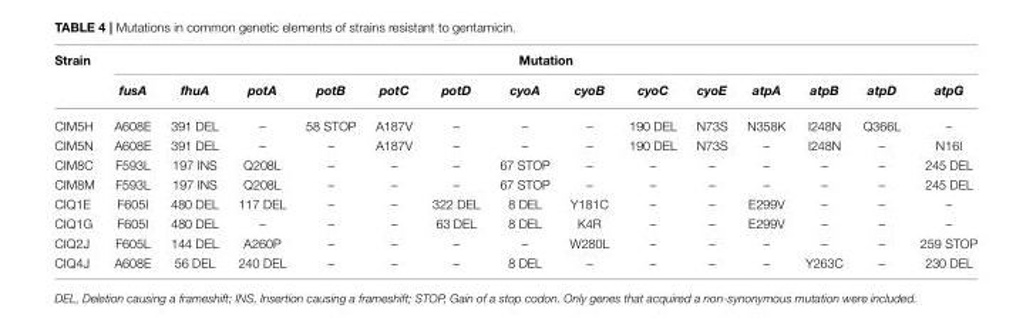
<table><thead><tr><td rowspan="2">Strain</td><td colspan="14">Mutation</td></tr><tr><td>fusA</td><td>fhuA</td><td>potA</td><td>potB</td><td>potC</td><td>potD</td><td>cyoA</td><td>cyoB</td><td>cyoC</td><td>cyoE</td><td>atpA</td><td>atpB</td><td>atpD</td><td>atpG</td></tr></thead><tbody><tr><td>CIM5H</td><td>A608E</td><td>391 DEL</td><td>–</td><td>58 STOP</td><td>A187V</td><td>–</td><td>–</td><td>–</td><td>190 DEL</td><td>N73S</td><td>N358K</td><td>I248N</td><td>Q366L</td><td>–</td></tr><tr><td>CIM5N</td><td>A608E</td><td>391 DEL</td><td>–</td><td>–</td><td>A187V</td><td>–</td><td>–</td><td>–</td><td>190 DEL</td><td>N73S</td><td>–</td><td>I248N</td><td>–</td><td>N16I</td></tr><tr><td>CIM8C</td><td>F593L</td><td>197 INS</td><td>Q208L</td><td>–</td><td>–</td><td>–</td><td>67 STOP</td><td>–</td><td>–</td><td>–</td><td>–</td><td>–</td><td>–</td><td>245 DEL</td></tr><tr><td>CIM8M</td><td>F593L</td><td>197 INS</td><td>Q208L</td><td>–</td><td>–</td><td>–</td><td>67 STOP</td><td>–</td><td>–</td><td>–</td><td>–</td><td>–</td><td>–</td><td>245 DEL</td></tr><tr><td>CIQ1E</td><td>F605I</td><td>480 DEL</td><td>117 DEL</td><td>–</td><td>–</td><td>322 DEL</td><td>8 DEL</td><td>Y181C</td><td>–</td><td>–</td><td>E299V</td><td>–</td><td>–</td><td>–</td></tr><tr><td>CIQ1G</td><td>F605I</td><td>480 DEL</td><td>–</td><td>–</td><td>–</td><td>63 DEL</td><td>8 DEL</td><td>K4R</td><td>–</td><td>–</td><td>E299V</td><td>–</td><td>–</td><td>–</td></tr><tr><td>CIQ2J</td><td>F605L</td><td>144 DEL</td><td>A260P</td><td>–</td><td>–</td><td>–</td><td>–</td><td>W280L</td><td>–</td><td>–</td><td>–</td><td>–</td><td>–</td><td>259 STOP</td></tr><tr><td>CIQ4J</td><td>A608E</td><td>56 DEL</td><td>240 DEL</td><td>–</td><td>–</td><td>–</td><td>8 DEL</td><td>–</td><td>–</td><td>–</td><td>–</td><td>Y263C</td><td>–</td><td>230 DEL</td></tr></tbody></table>